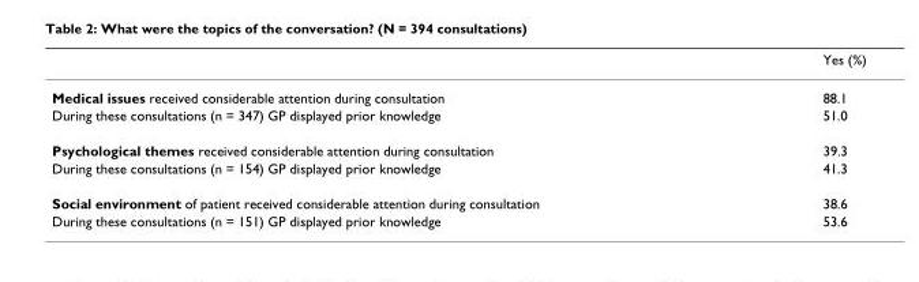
<table><thead><tr><td></td><td>Yes (%)</td></tr></thead><tbody><tr><td>Medical issues received considerable attention during consultation</td><td>88.1</td></tr><tr><td>During these consultations (n = 347) GP displayed prior knowledge</td><td>51.0</td></tr><tr><td>Psychological themes received considerable attention during consultation</td><td>39.3</td></tr><tr><td>During these consultations (n = 154) GP displayed prior knowledge</td><td>41.3</td></tr><tr><td>Social environment of patient received considerable attention during consultation</td><td>38.6</td></tr><tr><td>During these consultations (n = 151) GP displayed prior knowledge</td><td>53.6</td></tr></tbody></table>